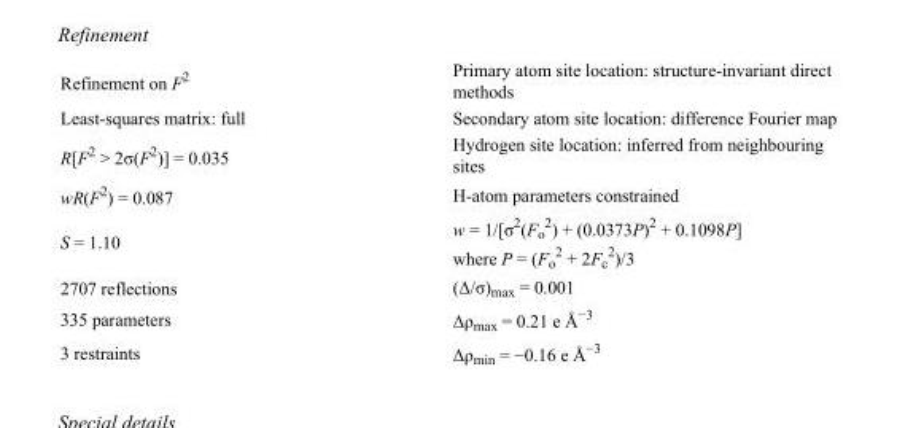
<table><tbody><tr><td>Refinement on F<sup>2</sup></td><td>Primary atom site location: structure-invariant direct methods</td></tr><tr><td>Least-squares matrix: full</td><td>Secondary atom site location: difference Fourier map</td></tr><tr><td>R[F<sup>2</sup> &gt; 2σ(F<sup>2</sup>)] = 0.035</td><td>Hydrogen site location: inferred from neighbouring sites</td></tr><tr><td>wR(F<sup>2</sup>) = 0.087</td><td>H-atom parameters constrained</td></tr><tr><td>S = 1.10</td><td>w = 1/[σ<sup>2</sup>(F<sub>o</sub> <sup>2</sup>) + (0.0373P)<sup>2</sup> + 0.1098P] where P = (F<sub>o</sub> <sup>2</sup> + 2F<sub>c</sub> <sup>2</sup>)/3</td></tr><tr><td>2707 reflections</td><td>(Δ/σ)<sub>max</sub> = 0.001</td></tr><tr><td>335 parameters</td><td>Δρ<sub>max</sub> = 0.21 e Å<sup>−3</sup></td></tr><tr><td>3 restraints</td><td>Δρ<sub>min</sub> = −0.16 e Å<sup>−3</sup></td></tr></tbody></table>